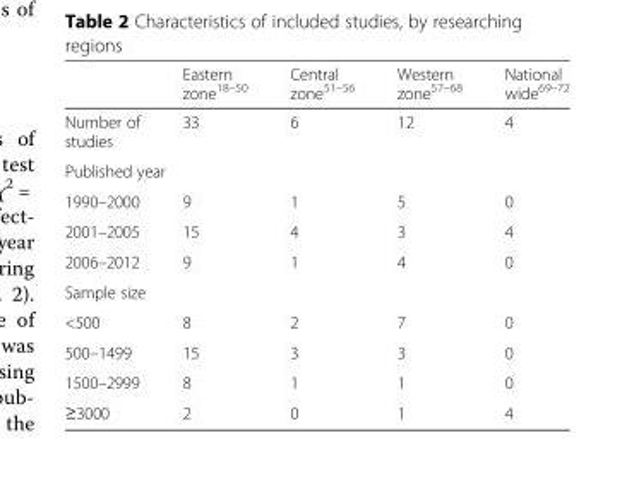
<table><thead><tr><td></td><td>Eastern zone<sup>18–50</sup></td><td>Central zone<sup>51–56</sup></td><td>Western zone<sup>57–68</sup></td><td>National wide<sup>69–72</sup></td></tr></thead><tbody><tr><td>Number of studies</td><td>33</td><td>6</td><td>12</td><td>4</td></tr><tr><td colspan="5">Published year</td></tr><tr><td>1990–2000</td><td>9</td><td>1</td><td>5</td><td>0</td></tr><tr><td>2001–2005</td><td>15</td><td>4</td><td>3</td><td>4</td></tr><tr><td>2006–2012</td><td>9</td><td>1</td><td>4</td><td>0</td></tr><tr><td colspan="5">Sample size</td></tr><tr><td>&lt;500</td><td>8</td><td>2</td><td>7</td><td>0</td></tr><tr><td>500–1499</td><td>15</td><td>3</td><td>3</td><td>0</td></tr><tr><td>1500–2999</td><td>8</td><td>1</td><td>1</td><td>0</td></tr><tr><td>≥3000</td><td>2</td><td>0</td><td>1</td><td>4</td></tr></tbody></table>